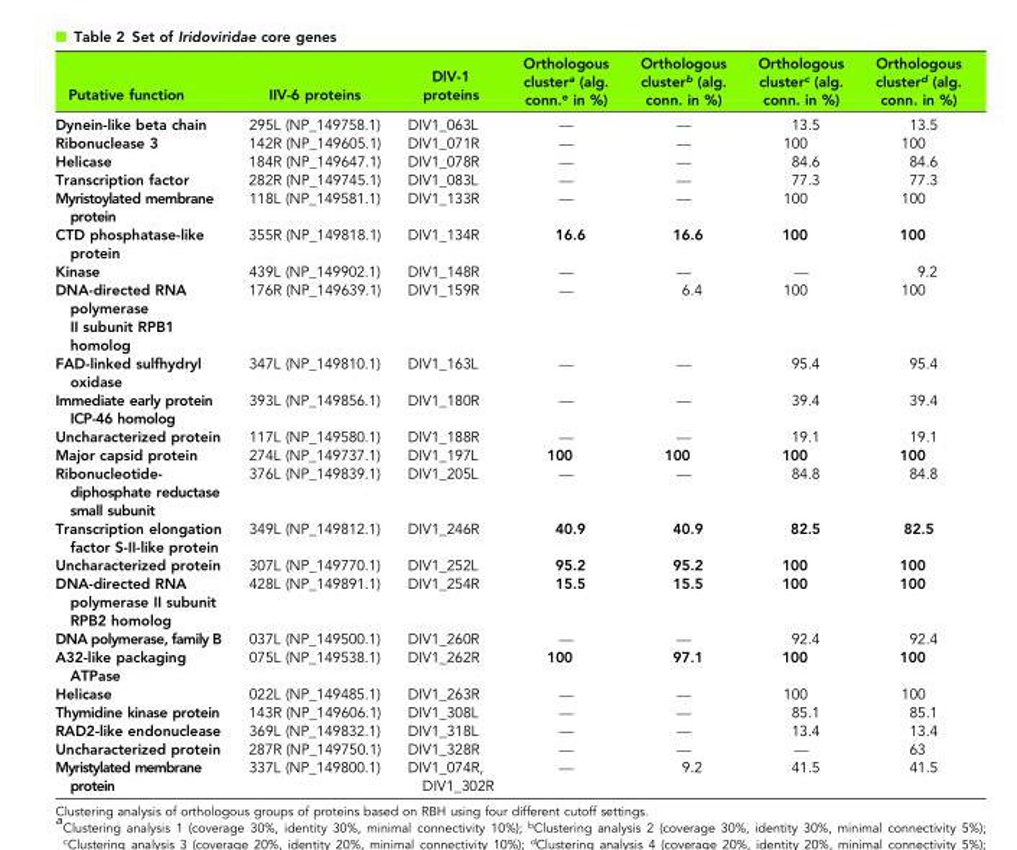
<table><thead><tr><td>Putative function</td><td>IIV-6 proteins</td><td>DIV-1 proteins</td><td>Orthologous cluster<sup>a</sup> (alg. conn.<sup>e</sup> in %)</td><td>Orthologous clusterb (alg. conn. in %)</td><td>Orthologous clusterc (alg. conn. in %)</td><td>Orthologous clusterd (alg. conn. in %)</td></tr></thead><tbody><tr><td>Dynein-like beta chain</td><td>295L (NP_149758.1)</td><td>DIV1_063L</td><td>—</td><td>—</td><td>13.5</td><td>13.5</td></tr><tr><td>Ribonuclease 3</td><td>142R (NP_149605.1)</td><td>DIV1_071R</td><td>—</td><td>—</td><td>100</td><td>100</td></tr><tr><td>Helicase</td><td>184R (NP_149647.1)</td><td>DIV1_078R</td><td>—</td><td>—</td><td>84.6</td><td>84.6</td></tr><tr><td>Transcription factor</td><td>282R (NP_149745.1)</td><td>DIV1_083L</td><td>—</td><td>—</td><td>77.3</td><td>77.3</td></tr><tr><td>Myristoylated membrane protein</td><td>118L (NP_149581.1)</td><td>DIV1_133R</td><td>—</td><td>—</td><td>100</td><td>100</td></tr><tr><td>CTD phosphatase-like protein</td><td>355R (NP_149818.1)</td><td>DIV1_134R</td><td>16.6</td><td>16.6</td><td>100</td><td>100</td></tr><tr><td>Kinase</td><td>439L (NP_149902.1)</td><td>DIV1_148R</td><td>—</td><td>—</td><td>—</td><td>9.2</td></tr><tr><td>DNA-directed RNA polymerase II subunit RPB1 homolog</td><td>176R (NP_149639.1)</td><td>DIV1_159R</td><td>—</td><td>6.4</td><td>100</td><td>100</td></tr><tr><td>FAD-linked sulfhydryl oxidase</td><td>347L (NP_149810.1)</td><td>DIV1_163L</td><td>—</td><td>—</td><td>95.4</td><td>95.4</td></tr><tr><td>Immediate early protein ICP-46 homolog</td><td>393L (NP_149856.1)</td><td>DIV1_180R</td><td>—</td><td>—</td><td>39.4</td><td>39.4</td></tr><tr><td>Uncharacterized protein</td><td>117L (NP_149580.1)</td><td>DIV1_188R</td><td>—</td><td>—</td><td>19.1</td><td>19.1</td></tr><tr><td>Major capsid protein</td><td>274L (NP_149737.1)</td><td>DIV1_197L</td><td>100</td><td>100</td><td>100</td><td>100</td></tr><tr><td>Ribonucleotide- diphosphate reductase small subunit</td><td>376L (NP_149839.1)</td><td>DIV1_205L</td><td>—</td><td>—</td><td>84.8</td><td>84.8</td></tr><tr><td>Transcription elongation factor S-II-like protein</td><td>349L (NP_149812.1)</td><td>DIV1_246R</td><td>40.9</td><td>40.9</td><td>82.5</td><td>82.5</td></tr><tr><td>Uncharacterized protein</td><td>307L (NP_149770.1)</td><td>DIV1_252L</td><td>95.2</td><td>95.2</td><td>100</td><td>100</td></tr><tr><td>DNA-directed RNA polymerase II subunit RPB2 homolog</td><td>428L (NP_149891.1)</td><td>DIV1_254R</td><td>15.5</td><td>15.5</td><td>100</td><td>100</td></tr><tr><td>DNA polymerase, family B</td><td>037L (NP_149500.1)</td><td>DIV1_260R</td><td>—</td><td>—</td><td>92.4</td><td>92.4</td></tr><tr><td>A32-like packaging ATPase</td><td>075L (NP_149538.1)</td><td>DIV1_262R</td><td>100</td><td>97.1</td><td>100</td><td>100</td></tr><tr><td>Helicase</td><td>022L (NP_149485.1)</td><td>DIV1_263R</td><td>—</td><td>—</td><td>100</td><td>100</td></tr><tr><td>Thymidine kinase protein</td><td>143R (NP_149606.1)</td><td>DIV1_308L</td><td>—</td><td>—</td><td>85.1</td><td>85.1</td></tr><tr><td>RAD2-like endonuclease</td><td>369L (NP_149832.1)</td><td>DIV1_318L</td><td>—</td><td>—</td><td>13.4</td><td>13.4</td></tr><tr><td>Uncharacterized protein</td><td>287R (NP_149750.1)</td><td>DIV1_328R</td><td>—</td><td>—</td><td>—</td><td>63</td></tr><tr><td>Myristylated membrane protein</td><td>337L (NP_149800.1)</td><td>DIV1_074R, DIV1_302R</td><td>—</td><td>9.2</td><td>41.5</td><td>41.5</td></tr></tbody></table>